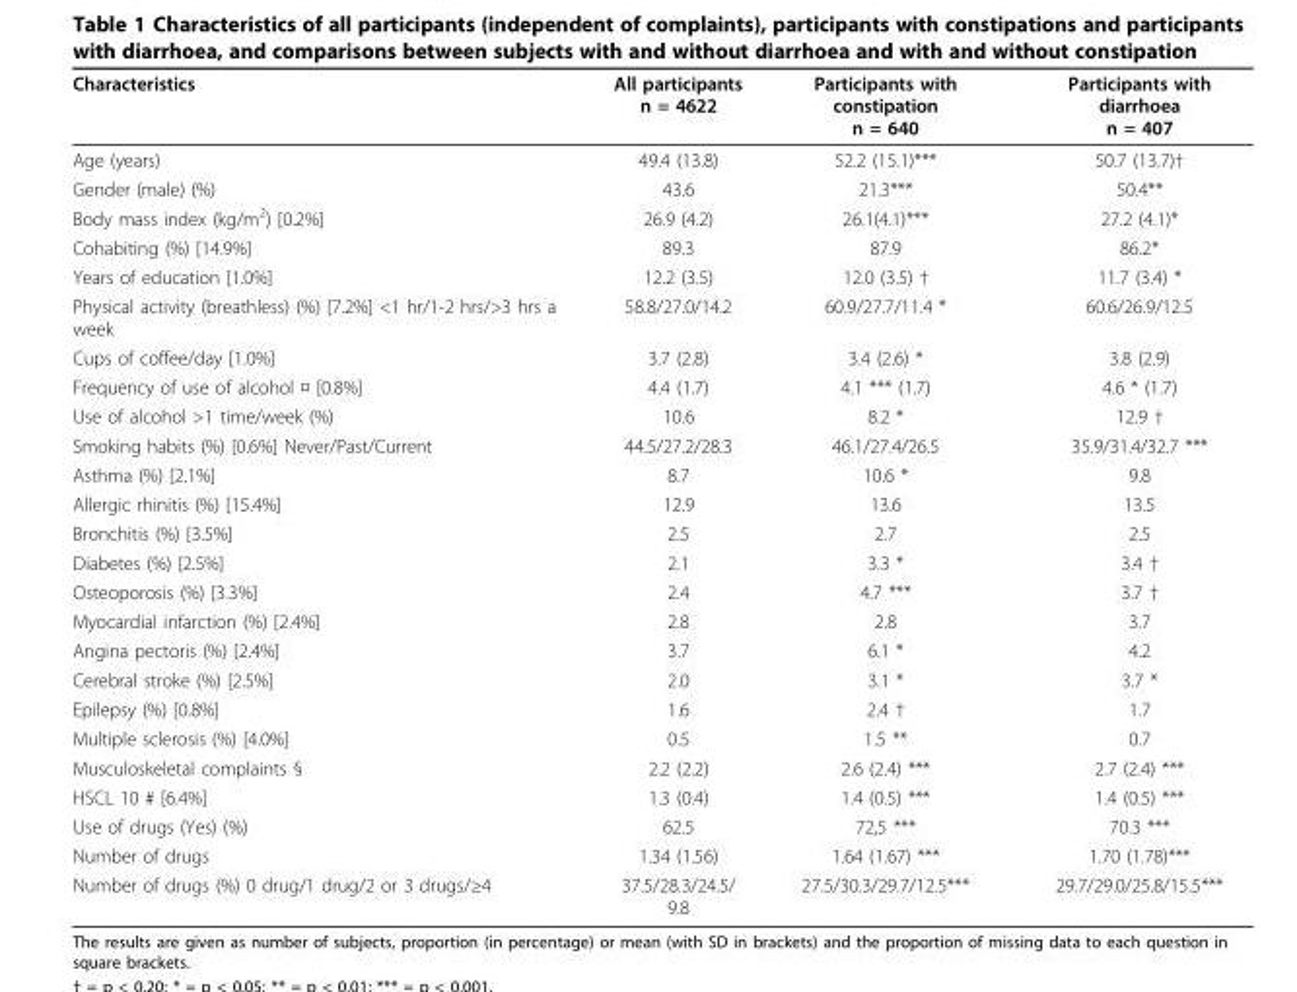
<table><thead><tr><td>Characteristics</td><td>All participants n = 4622</td><td>Participants with constipation n = 640</td><td>Participants with diarrhoea n = 407</td></tr></thead><tbody><tr><td>Age (years)</td><td>49.4 (13.8)</td><td>52.2 (15.1)***</td><td>50.7 (13.7)†</td></tr><tr><td>Gender (male) (%)</td><td>43.6</td><td>21.3***</td><td>50.4**</td></tr><tr><td>Body mass index (kg/m<sup>2</sup>) [0.2%]</td><td>26.9 (4.2)</td><td>26.1(4.1)***</td><td>27.2 (4.1)*</td></tr><tr><td>Cohabiting (%) [14.9%]</td><td>89.3</td><td>87.9</td><td>86.2*</td></tr><tr><td>Years of education [1.0%]</td><td>12.2 (3.5)</td><td>12.0 (3.5) †</td><td>11.7 (3.4) *</td></tr><tr><td>Physical activity (breathless) (%) [7.2%] &lt;1 hr/1-2 hrs/&gt;3 hrs a week</td><td>58.8/27.0/14.2</td><td>60.9/27.7/11.4 *</td><td>60.6/26.9/12.5</td></tr><tr><td>Cups of coffee/day [1.0%]</td><td>3.7 (2.8)</td><td>3.4 (2.6) *</td><td>3.8 (2.9)</td></tr><tr><td>Frequency of use of alcohol ¤ [0.8%]</td><td>4.4 (1.7)</td><td>4.1 *** (1.7)</td><td>4.6 * (1.7)</td></tr><tr><td>Use of alcohol &gt;1 time/week (%)</td><td>10.6</td><td>8.2 *</td><td>12.9 †</td></tr><tr><td>Smoking habits (%) [0.6%] Never/Past/Current</td><td>44.5/27.2/28.3</td><td>46.1/27.4/26.5</td><td>35.9/31.4/32.7 ***</td></tr><tr><td>Asthma (%) [2.1%]</td><td>8.7</td><td>10.6 *</td><td>9.8</td></tr><tr><td>Allergic rhinitis (%) [15.4%]</td><td>12.9</td><td>13.6</td><td>13.5</td></tr><tr><td>Bronchitis (%) [3.5%]</td><td>2.5</td><td>2.7</td><td>2.5</td></tr><tr><td>Diabetes (%) [2.5%]</td><td>2.1</td><td>3.3 *</td><td>3.4 †</td></tr><tr><td>Osteoporosis (%) [3.3%]</td><td>2.4</td><td>4.7 ***</td><td>3.7 †</td></tr><tr><td>Myocardial infarction (%) [2.4%]</td><td>2.8</td><td>2.8</td><td>3.7</td></tr><tr><td>Angina pectoris (%) [2.4%]</td><td>3.7</td><td>6.1 *</td><td>4.2</td></tr><tr><td>Cerebral stroke (%) [2.5%]</td><td>2.0</td><td>3.1 *</td><td>3.7 *</td></tr><tr><td>Epilepsy (%) [0.8%]</td><td>1.6</td><td>2.4 †</td><td>1.7</td></tr><tr><td>Multiple sclerosis (%) [4.0%]</td><td>0.5</td><td>1.5 **</td><td>0.7</td></tr><tr><td>Musculoskeletal complaints §</td><td>2.2 (2.2)</td><td>2.6 (2.4) ***</td><td>2.7 (2.4) ***</td></tr><tr><td>HSCL 10 # [6.4%]</td><td>1.3 (0.4)</td><td>1.4 (0.5) ***</td><td>1.4 (0.5) ***</td></tr><tr><td>Use of drugs (Yes) (%)</td><td>62.5</td><td>72,5 ***</td><td>70.3 ***</td></tr><tr><td>Number of drugs</td><td>1.34 (1.56)</td><td>1.64 (1.67) ***</td><td>1.70 (1.78)***</td></tr><tr><td>Number of drugs (%) 0 drug/1 drug/2 or 3 drugs/≥4</td><td>37.5/28.3/24.5/ 9.8</td><td>27.5/30.3/29.7/12.5***</td><td>29.7/29.0/25.8/15.5***</td></tr></tbody></table>